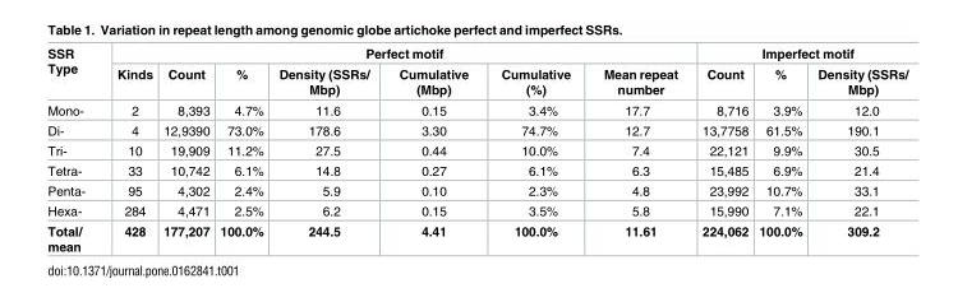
<table><thead><tr><td rowspan="2">SSR Type</td><td colspan="7">Perfect motif</td><td colspan="3">Imperfect motif</td></tr><tr><td>Kinds</td><td>Count</td><td>%</td><td>Density (SSRs/ Mbp)</td><td>Cumulative (Mbp)</td><td>Cumulative (%)</td><td>Mean repeat number</td><td>Count</td><td>%</td><td>Density (SSRs/ Mbp)</td></tr></thead><tbody><tr><td>Mono-</td><td>2</td><td>8,393</td><td>4.7%</td><td>11.6</td><td>0.15</td><td>3.4%</td><td>17.7</td><td>8,716</td><td>3.9%</td><td>12.0</td></tr><tr><td>Di-</td><td>4</td><td>12,9390</td><td>73.0%</td><td>178.6</td><td>3.30</td><td>74.7%</td><td>12.7</td><td>13,7758</td><td>61.5%</td><td>190.1</td></tr><tr><td>Tri-</td><td>10</td><td>19,909</td><td>11.2%</td><td>27.5</td><td>0.44</td><td>10.0%</td><td>7.4</td><td>22,121</td><td>9.9%</td><td>30.5</td></tr><tr><td>Tetra-</td><td>33</td><td>10,742</td><td>6.1%</td><td>14.8</td><td>0.27</td><td>6.1%</td><td>6.3</td><td>15,485</td><td>6.9%</td><td>21.4</td></tr><tr><td>Penta-</td><td>95</td><td>4,302</td><td>2.4%</td><td>5.9</td><td>0.10</td><td>2.3%</td><td>4.8</td><td>23,992</td><td>10.7%</td><td>33.1</td></tr><tr><td>Hexa-</td><td>284</td><td>4,471</td><td>2.5%</td><td>6.2</td><td>0.15</td><td>3.5%</td><td>5.8</td><td>15,990</td><td>7.1%</td><td>22.1</td></tr><tr><td>Total/ mean</td><td>428</td><td>177,207</td><td>100.0%</td><td>244.5</td><td>4.41</td><td>100.0%</td><td>11.61</td><td>224,062</td><td>100.0%</td><td>309.2</td></tr></tbody></table>